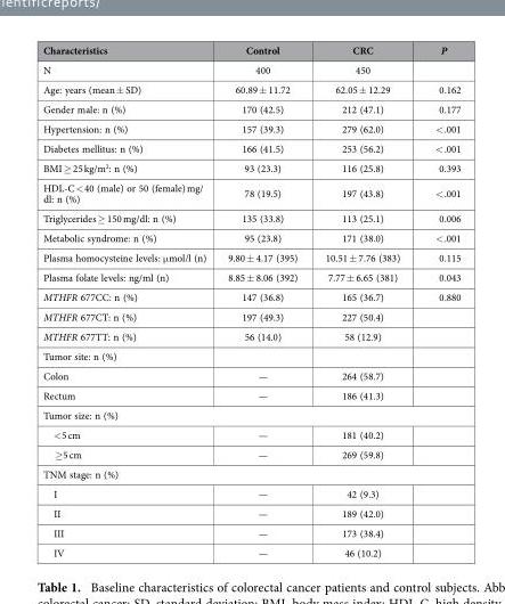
<table><thead><tr><td>Characteristics</td><td>Control</td><td>CRC</td><td>P</td></tr></thead><tbody><tr><td>N</td><td>400</td><td>450</td><td></td></tr><tr><td>Age: years (mean ± SD)</td><td>60.89 ± 11.72</td><td>62.05 ± 12.29</td><td>0.162</td></tr><tr><td>Gender male: n (%)</td><td>170 (42.5)</td><td>212 (47.1)</td><td>0.177</td></tr><tr><td>Hypertension: n (%)</td><td>157 (39.3)</td><td>279 (62.0)</td><td>&lt; .001</td></tr><tr><td>Diabetes mellitus: n (%)</td><td>166 (41.5)</td><td>253 (56.2)</td><td>&lt; .001</td></tr><tr><td>BMI ≥ 25 kg/m<sup>2</sup>: n (%)</td><td>93 (23.3)</td><td>116 (25.8)</td><td>0.393</td></tr><tr><td>HDL-C &lt; 40 (male) or 50 (female) mg/ dl: n (%)</td><td>78 (19.5)</td><td>197 (43.8)</td><td>&lt; .001</td></tr><tr><td>Triglycerides ≥ 150 mg/dl: n (%)</td><td>135 (33.8)</td><td>113 (25.1)</td><td>0.006</td></tr><tr><td>Metabolic syndrome: n (%)</td><td>95 (23.8)</td><td>171 (38.0)</td><td>&lt; .001</td></tr><tr><td>Plasma homocysteine levels: μ mol/l (n)</td><td>9.80 ± 4.17 (395)</td><td>10.51 ± 7.76 (383)</td><td>0.115</td></tr><tr><td>Plasma folate levels: ng/ml (n)</td><td>8.85 ± 8.06 (392)</td><td>7.77 ± 6.65 (381)</td><td>0.043</td></tr><tr><td>MTHFR 677CC: n (%)</td><td>147 (36.8)</td><td>165 (36.7)</td><td>0.880</td></tr><tr><td>MTHFR 677CT: n (%)</td><td>197 (49.3)</td><td>227 (50.4)</td><td></td></tr><tr><td>MTHFR 677TT: n (%)</td><td>56 (14.0)</td><td>58 (12.9)</td><td></td></tr><tr><td colspan="4">Tumor site: n (%)</td></tr><tr><td>Colon</td><td>—</td><td>264 (58.7)</td><td></td></tr><tr><td>Rectum</td><td>—</td><td>186 (41.3)</td><td></td></tr><tr><td colspan="4">Tumor size: n (%)</td></tr><tr><td>&lt;5 cm</td><td>—</td><td>181 (40.2)</td><td></td></tr><tr><td>≥5 cm</td><td>—</td><td>269 (59.8)</td><td></td></tr><tr><td colspan="4">TNM stage: n (%)</td></tr><tr><td>I</td><td>—</td><td>42 (9.3)</td><td></td></tr><tr><td>II</td><td>—</td><td>189 (42.0)</td><td></td></tr><tr><td>III</td><td>—</td><td>173 (38.4)</td><td></td></tr><tr><td>IV</td><td>—</td><td>46 (10.2)</td><td></td></tr></tbody></table>